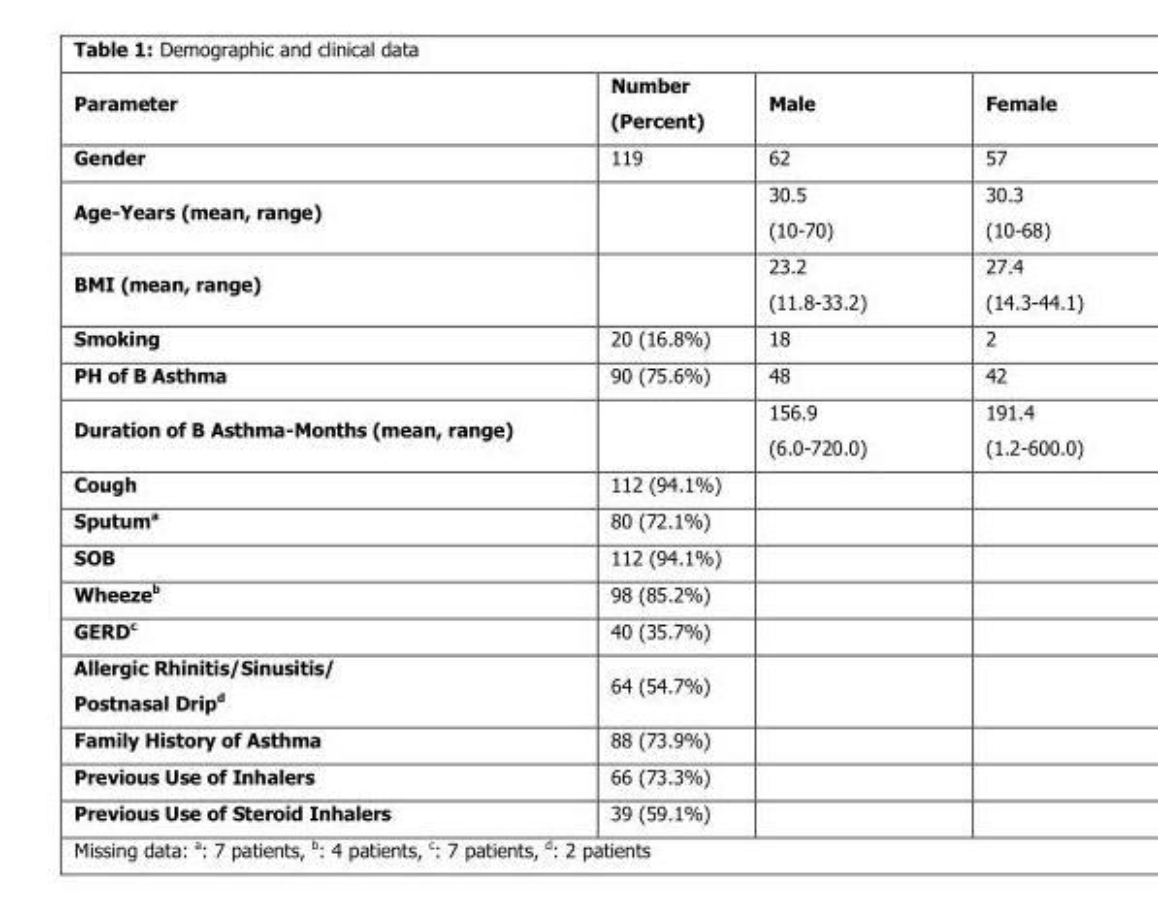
<table><thead><tr><td>Parameter</td><td>Number (Percent)</td><td>Male</td><td>Female</td></tr></thead><tbody><tr><td>Gender</td><td>119</td><td>62</td><td>57</td></tr><tr><td>Age-Years (mean, range)</td><td></td><td>30.5 (10-70)</td><td>30.3 (10-68)</td></tr><tr><td>BMI (mean, range)</td><td></td><td>23.2 (11.8-33.2)</td><td>27.4 (14.3-44.1)</td></tr><tr><td>Smoking</td><td>20 (16.8%)</td><td>18</td><td>2</td></tr><tr><td>PH of B Asthma</td><td>90 (75.6%)</td><td>48</td><td>42</td></tr><tr><td>Duration of B Asthma-Months (mean, range)</td><td></td><td>156.9 (6.0-720.0)</td><td>191.4 (1.2-600.0)</td></tr><tr><td>Cough</td><td>112 (94.1%)</td><td></td><td></td></tr><tr><td>Sputum<sup>a</sup></td><td>80 (72.1%)</td><td></td><td></td></tr><tr><td>SOB</td><td>112 (94.1%)</td><td></td><td></td></tr><tr><td>Wheeze<sup>b</sup></td><td>98 (85.2%)</td><td></td><td></td></tr><tr><td>GERD<sup>c</sup></td><td>40 (35.7%)</td><td></td><td></td></tr><tr><td>Allergic Rhinitis/Sinusitis/ Postnasal Drip<sup>d</sup></td><td>64 (54.7%)</td><td></td><td></td></tr><tr><td>Family History of Asthma</td><td>88 (73.9%)</td><td></td><td></td></tr><tr><td>Previous Use of Inhalers</td><td>66 (73.3%)</td><td></td><td></td></tr><tr><td>Previous Use of Steroid Inhalers</td><td>39 (59.1%)</td><td></td><td></td></tr></tbody></table>